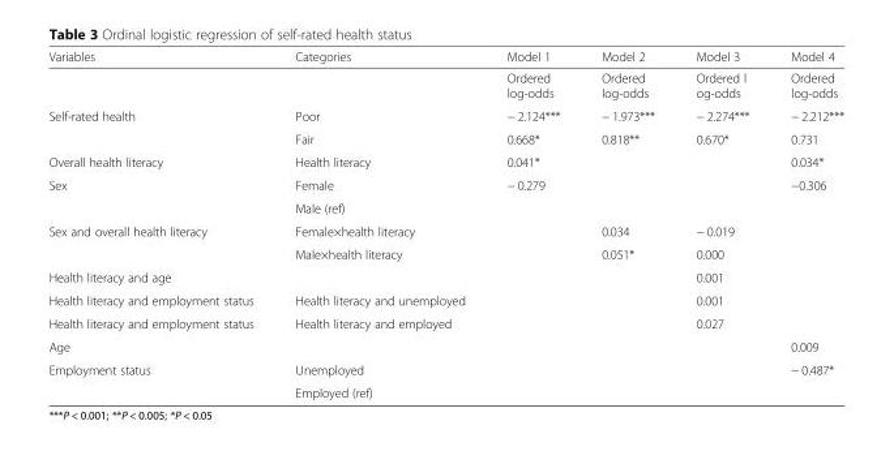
<table><thead><tr><td>Variables</td><td>Categories</td><td>Model 1</td><td>Model 2</td><td>Model 3</td><td>Model 4</td></tr></thead><tbody><tr><td></td><td></td><td>Ordered log-odds</td><td>Ordered log-odds</td><td>Ordered l og-odds</td><td>Ordered log-odds</td></tr><tr><td rowspan="2">Self-rated health</td><td>Poor</td><td>− 2.124***</td><td>− 1.973***</td><td>− 2.274***</td><td>− 2.212***</td></tr><tr><td>Fair</td><td>0.668*</td><td>0.818**</td><td>0.670*</td><td>0.731</td></tr><tr><td>Overall health literacy</td><td>Health literacy</td><td>0.041*</td><td></td><td></td><td>0.034*</td></tr><tr><td rowspan="2">Sex</td><td>Female</td><td>− 0.279</td><td></td><td></td><td>−0.306</td></tr><tr><td>Male (ref)</td><td></td><td></td><td></td><td></td></tr><tr><td rowspan="2">Sex and overall health literacy</td><td>Female×health literacy</td><td></td><td>0.034</td><td>− 0.019</td><td></td></tr><tr><td>Male×health literacy</td><td></td><td>0.051*</td><td>0.000</td><td></td></tr><tr><td>Health literacy and age</td><td></td><td></td><td></td><td>0.001</td><td></td></tr><tr><td>Health literacy and employment status</td><td>Health literacy and unemployed</td><td></td><td></td><td>0.001</td><td></td></tr><tr><td>Health literacy and employment status</td><td>Health literacy and employed</td><td></td><td></td><td>0.027</td><td></td></tr><tr><td>Age</td><td></td><td></td><td></td><td></td><td>0.009</td></tr><tr><td rowspan="2">Employment status</td><td>Unemployed</td><td></td><td></td><td></td><td>− 0.487*</td></tr><tr><td>Employed (ref)</td><td></td><td></td><td></td><td></td></tr></tbody></table>